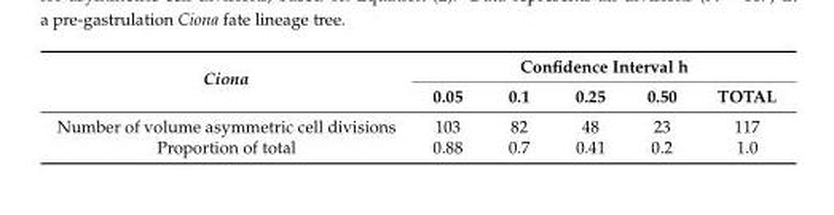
<table><thead><tr><td rowspan="2">Ciona</td><td colspan="5">Confidence Interval h</td></tr><tr><td>0.05</td><td>0.1</td><td>0.25</td><td>0.50</td><td>TOTAL</td></tr></thead><tbody><tr><td>Number of volume asymmetric cell divisions</td><td>103</td><td>82</td><td>48</td><td>23</td><td>117</td></tr><tr><td>Proportion of total</td><td>0.88</td><td>0.7</td><td>0.41</td><td>0.2</td><td>1.0</td></tr></tbody></table>